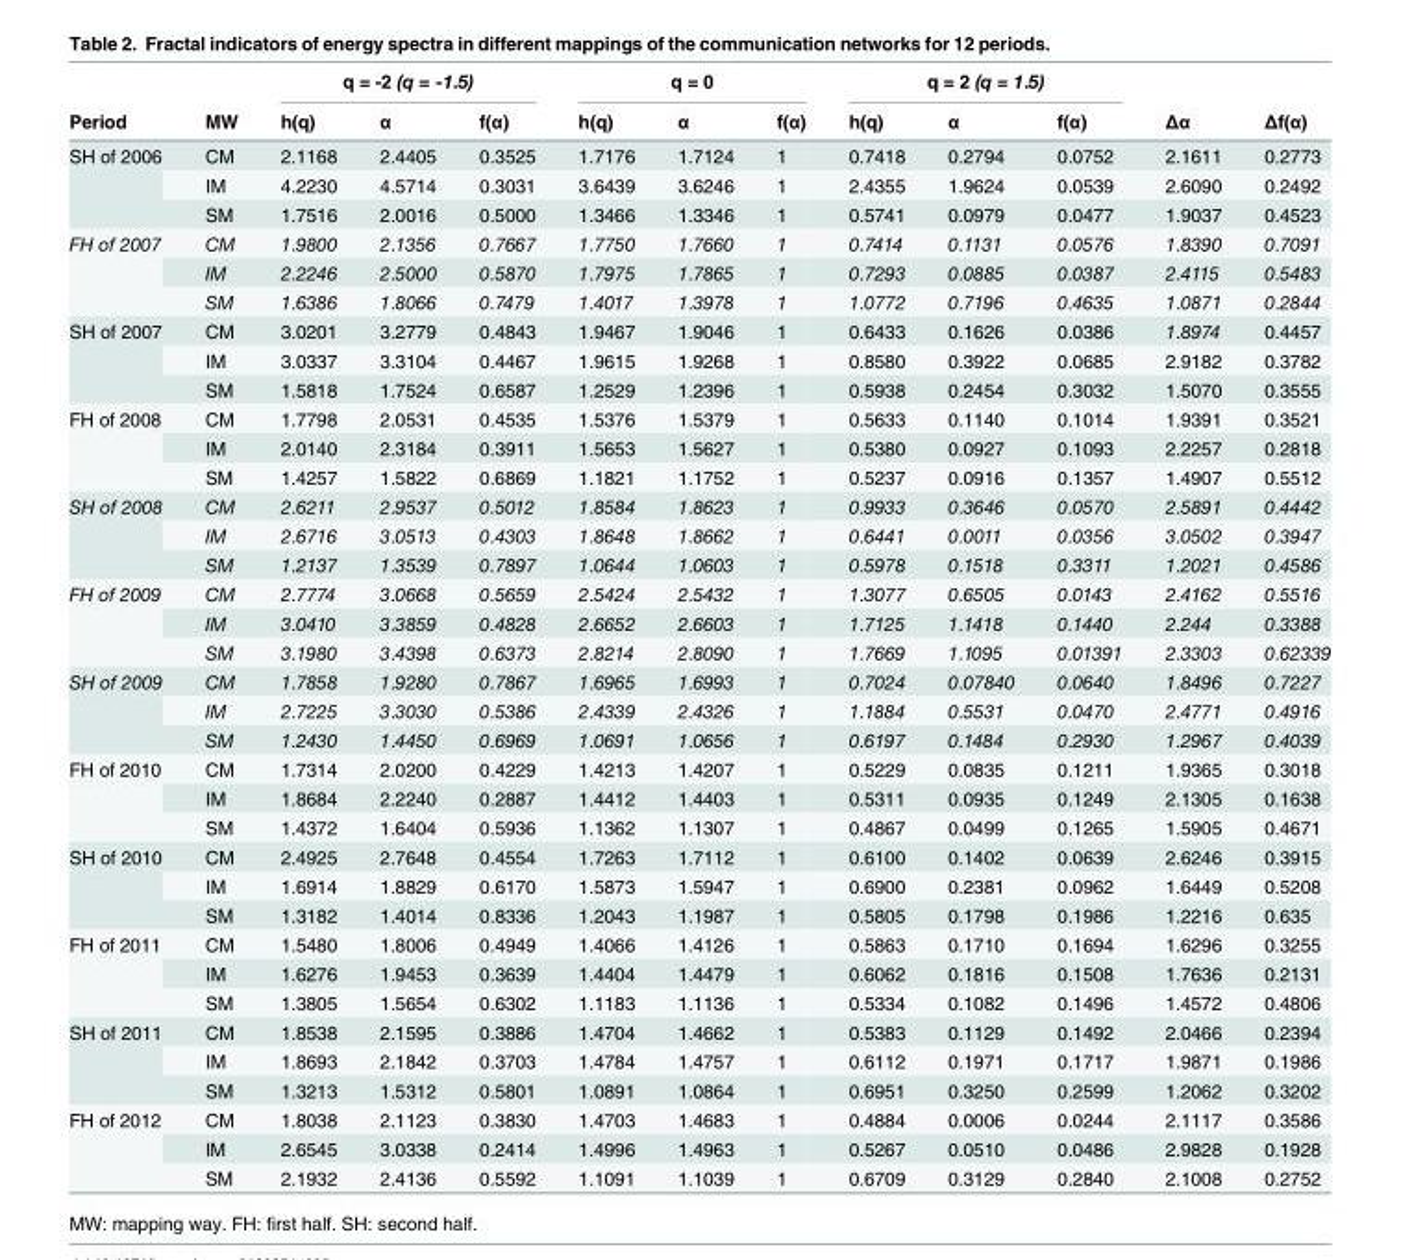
<table><thead><tr><td rowspan="2">Period</td><td rowspan="2">MW</td><td colspan="3">q = -2 (q = -1.5)</td><td colspan="3">q = 0</td><td colspan="3">q = 2 (q = 1.5)</td><td rowspan="2">Δα</td><td rowspan="2">Δf(α)</td></tr><tr><td>h(q)</td><td>α</td><td>f(α)</td><td>h(q)</td><td>α</td><td>f(α)</td><td>h(q)</td><td>α</td><td>f(α)</td></tr></thead><tbody><tr><td rowspan="3">SH of 2006</td><td>CM</td><td>2.1168</td><td>2.4405</td><td>0.3525</td><td>1.7176</td><td>1.7124</td><td>1</td><td>0.7418</td><td>0.2794</td><td>0.0752</td><td>2.1611</td><td>0.2773</td></tr><tr><td>IM</td><td>4.2230</td><td>4.5714</td><td>0.3031</td><td>3.6439</td><td>3.6246</td><td>1</td><td>2.4355</td><td>1.9624</td><td>0.0539</td><td>2.6090</td><td>0.2492</td></tr><tr><td>SM</td><td>1.7516</td><td>2.0016</td><td>0.5000</td><td>1.3466</td><td>1.3346</td><td>1</td><td>0.5741</td><td>0.0979</td><td>0.0477</td><td>1.9037</td><td>0.4523</td></tr><tr><td rowspan="3">FH of 2007</td><td>CM</td><td>1.9800</td><td>2.1356</td><td>0.7667</td><td>1.7750</td><td>1.7660</td><td>1</td><td>0.7414</td><td>0.1131</td><td>0.0576</td><td>1.8390</td><td>0.7091</td></tr><tr><td>IM</td><td>2.2246</td><td>2.5000</td><td>0.5870</td><td>1.7975</td><td>1.7865</td><td>1</td><td>0.7293</td><td>0.0885</td><td>0.0387</td><td>2.4115</td><td>0.5483</td></tr><tr><td>SM</td><td>1.6386</td><td>1.8066</td><td>0.7479</td><td>1.4017</td><td>1.3978</td><td>1</td><td>1.0772</td><td>0.7196</td><td>0.4635</td><td>1.0871</td><td>0.2844</td></tr><tr><td rowspan="3">SH of 2007</td><td>CM</td><td>3.0201</td><td>3.2779</td><td>0.4843</td><td>1.9467</td><td>1.9046</td><td>1</td><td>0.6433</td><td>0.1626</td><td>0.0386</td><td>1.8974</td><td>0.4457</td></tr><tr><td>IM</td><td>3.0337</td><td>3.3104</td><td>0.4467</td><td>1.9615</td><td>1.9268</td><td>1</td><td>0.8580</td><td>0.3922</td><td>0.0685</td><td>2.9182</td><td>0.3782</td></tr><tr><td>SM</td><td>1.5818</td><td>1.7524</td><td>0.6587</td><td>1.2529</td><td>1.2396</td><td>1</td><td>0.5938</td><td>0.2454</td><td>0.3032</td><td>1.5070</td><td>0.3555</td></tr><tr><td rowspan="3">FH of 2008</td><td>CM</td><td>1.7798</td><td>2.0531</td><td>0.4535</td><td>1.5376</td><td>1.5379</td><td>1</td><td>0.5633</td><td>0.1140</td><td>0.1014</td><td>1.9391</td><td>0.3521</td></tr><tr><td>IM</td><td>2.0140</td><td>2.3184</td><td>0.3911</td><td>1.5653</td><td>1.5627</td><td>1</td><td>0.5380</td><td>0.0927</td><td>0.1093</td><td>2.2257</td><td>0.2818</td></tr><tr><td>SM</td><td>1.4257</td><td>1.5822</td><td>0.6869</td><td>1.1821</td><td>1.1752</td><td>1</td><td>0.5237</td><td>0.0916</td><td>0.1357</td><td>1.4907</td><td>0.5512</td></tr><tr><td rowspan="3">SH of 2008</td><td>CM</td><td>2.6211</td><td>2.9537</td><td>0.5012</td><td>1.8584</td><td>1.8623</td><td>1</td><td>0.9933</td><td>0.3646</td><td>0.0570</td><td>2.5891</td><td>0.4442</td></tr><tr><td>IM</td><td>2.6716</td><td>3.0513</td><td>0.4303</td><td>1.8648</td><td>1.8662</td><td>1</td><td>0.6441</td><td>0.0011</td><td>0.0356</td><td>3.0502</td><td>0.3947</td></tr><tr><td>SM</td><td>1.2137</td><td>1.3539</td><td>0.7897</td><td>1.0644</td><td>1.0603</td><td>1</td><td>0.5978</td><td>0.1518</td><td>0.3311</td><td>1.2021</td><td>0.4586</td></tr><tr><td rowspan="3">FH of 2009</td><td>CM</td><td>2.7774</td><td>3.0668</td><td>0.5659</td><td>2.5424</td><td>2.5432</td><td>1</td><td>1.3077</td><td>0.6505</td><td>0.0143</td><td>2.4162</td><td>0.5516</td></tr><tr><td>IM</td><td>3.0410</td><td>3.3859</td><td>0.4828</td><td>2.6652</td><td>2.6603</td><td>1</td><td>1.7125</td><td>1.1418</td><td>0.1440</td><td>2.244</td><td>0.3388</td></tr><tr><td>SM</td><td>3.1980</td><td>3.4398</td><td>0.6373</td><td>2.8214</td><td>2.8090</td><td>1</td><td>1.7669</td><td>1.1095</td><td>0.01391</td><td>2.3303</td><td>0.62339</td></tr><tr><td rowspan="3">SH of 2009</td><td>CM</td><td>1.7858</td><td>1.9280</td><td>0.7867</td><td>1.6965</td><td>1.6993</td><td>1</td><td>0.7024</td><td>0.07840</td><td>0.0640</td><td>1.8496</td><td>0.7227</td></tr><tr><td>IM</td><td>2.7225</td><td>3.3030</td><td>0.5386</td><td>2.4339</td><td>2.4326</td><td>1</td><td>1.1884</td><td>0.5531</td><td>0.0470</td><td>2.4771</td><td>0.4916</td></tr><tr><td>SM</td><td>1.2430</td><td>1.4450</td><td>0.6969</td><td>1.0691</td><td>1.0656</td><td>1</td><td>0.6197</td><td>0.1484</td><td>0.2930</td><td>1.2967</td><td>0.4039</td></tr><tr><td rowspan="3">FH of 2010</td><td>CM</td><td>1.7314</td><td>2.0200</td><td>0.4229</td><td>1.4213</td><td>1.4207</td><td>1</td><td>0.5229</td><td>0.0835</td><td>0.1211</td><td>1.9365</td><td>0.3018</td></tr><tr><td>IM</td><td>1.8684</td><td>2.2240</td><td>0.2887</td><td>1.4412</td><td>1.4403</td><td>1</td><td>0.5311</td><td>0.0935</td><td>0.1249</td><td>2.1305</td><td>0.1638</td></tr><tr><td>SM</td><td>1.4372</td><td>1.6404</td><td>0.5936</td><td>1.1362</td><td>1.1307</td><td>1</td><td>0.4867</td><td>0.0499</td><td>0.1265</td><td>1.5905</td><td>0.4671</td></tr><tr><td rowspan="3">SH of 2010</td><td>CM</td><td>2.4925</td><td>2.7648</td><td>0.4554</td><td>1.7263</td><td>1.7112</td><td>1</td><td>0.6100</td><td>0.1402</td><td>0.0639</td><td>2.6246</td><td>0.3915</td></tr><tr><td>IM</td><td>1.6914</td><td>1.8829</td><td>0.6170</td><td>1.5873</td><td>1.5947</td><td>1</td><td>0.6900</td><td>0.2381</td><td>0.0962</td><td>1.6449</td><td>0.5208</td></tr><tr><td>SM</td><td>1.3182</td><td>1.4014</td><td>0.8336</td><td>1.2043</td><td>1.1987</td><td>1</td><td>0.5805</td><td>0.1798</td><td>0.1986</td><td>1.2216</td><td>0.635</td></tr><tr><td rowspan="3">FH of 2011</td><td>CM</td><td>1.5480</td><td>1.8006</td><td>0.4949</td><td>1.4066</td><td>1.4126</td><td>1</td><td>0.5863</td><td>0.1710</td><td>0.1694</td><td>1.6296</td><td>0.3255</td></tr><tr><td>IM</td><td>1.6276</td><td>1.9453</td><td>0.3639</td><td>1.4404</td><td>1.4479</td><td>1</td><td>0.6062</td><td>0.1816</td><td>0.1508</td><td>1.7636</td><td>0.2131</td></tr><tr><td>SM</td><td>1.3805</td><td>1.5654</td><td>0.6302</td><td>1.1183</td><td>1.1136</td><td>1</td><td>0.5334</td><td>0.1082</td><td>0.1496</td><td>1.4572</td><td>0.4806</td></tr><tr><td rowspan="3">SH of 2011</td><td>CM</td><td>1.8538</td><td>2.1595</td><td>0.3886</td><td>1.4704</td><td>1.4662</td><td>1</td><td>0.5383</td><td>0.1129</td><td>0.1492</td><td>2.0466</td><td>0.2394</td></tr><tr><td>IM</td><td>1.8693</td><td>2.1842</td><td>0.3703</td><td>1.4784</td><td>1.4757</td><td>1</td><td>0.6112</td><td>0.1971</td><td>0.1717</td><td>1.9871</td><td>0.1986</td></tr><tr><td>SM</td><td>1.3213</td><td>1.5312</td><td>0.5801</td><td>1.0891</td><td>1.0864</td><td>1</td><td>0.6951</td><td>0.3250</td><td>0.2599</td><td>1.2062</td><td>0.3202</td></tr><tr><td rowspan="3">FH of 2012</td><td>CM</td><td>1.8038</td><td>2.1123</td><td>0.3830</td><td>1.4703</td><td>1.4683</td><td>1</td><td>0.4884</td><td>0.0006</td><td>0.0244</td><td>2.1117</td><td>0.3586</td></tr><tr><td>IM</td><td>2.6545</td><td>3.0338</td><td>0.2414</td><td>1.4996</td><td>1.4963</td><td>1</td><td>0.5267</td><td>0.0510</td><td>0.0486</td><td>2.9828</td><td>0.1928</td></tr><tr><td>SM</td><td>2.1932</td><td>2.4136</td><td>0.5592</td><td>1.1091</td><td>1.1039</td><td>1</td><td>0.6709</td><td>0.3129</td><td>0.2840</td><td>2.1008</td><td>0.2752</td></tr></tbody></table>